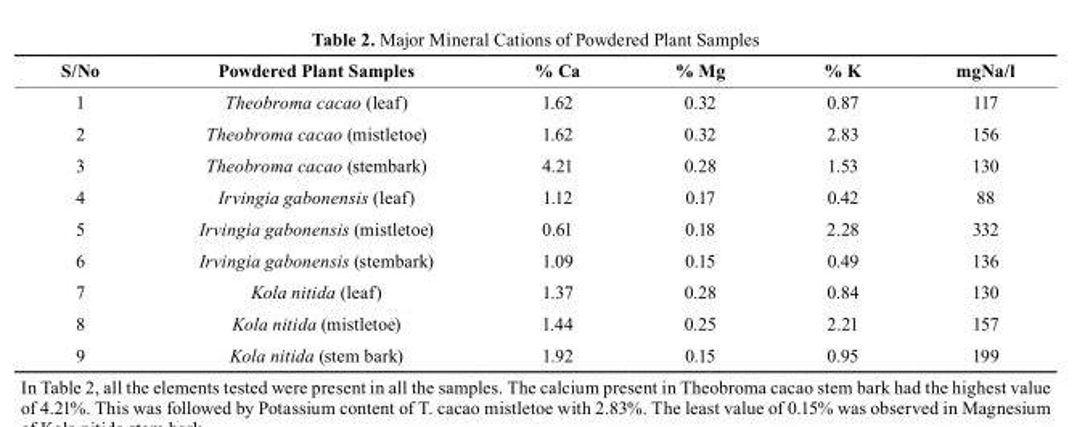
<table><thead><tr><td>S/No</td><td>Powdered Plant Samples</td><td>% Ca</td><td>% Mg</td><td>% K</td><td>mgNa/l</td></tr></thead><tbody><tr><td>1</td><td>Theobroma cacao (leaf)</td><td>1.62</td><td>0.32</td><td>0.87</td><td>117</td></tr><tr><td>2</td><td>Theobroma cacao (mistletoe)</td><td>1.62</td><td>0.32</td><td>2.83</td><td>156</td></tr><tr><td>3</td><td>Theobroma cacao (stembark)</td><td>4.21</td><td>0.28</td><td>1.53</td><td>130</td></tr><tr><td>4</td><td>Irvingia gabonensis (leaf)</td><td>1.12</td><td>0.17</td><td>0.42</td><td>88</td></tr><tr><td>5</td><td>Irvingia gabonensis (mistletoe)</td><td>0.61</td><td>0.18</td><td>2.28</td><td>332</td></tr><tr><td>6</td><td>Irvingia gabonensis (stembark)</td><td>1.09</td><td>0.15</td><td>0.49</td><td>136</td></tr><tr><td>7</td><td>Kola nitida (leaf)</td><td>1.37</td><td>0.28</td><td>0.84</td><td>130</td></tr><tr><td>8</td><td>Kola nitida (mistletoe)</td><td>1.44</td><td>0.25</td><td>2.21</td><td>157</td></tr><tr><td>9</td><td>Kola nitida (stem bark)</td><td>1.92</td><td>0.15</td><td>0.95</td><td>199</td></tr></tbody></table>